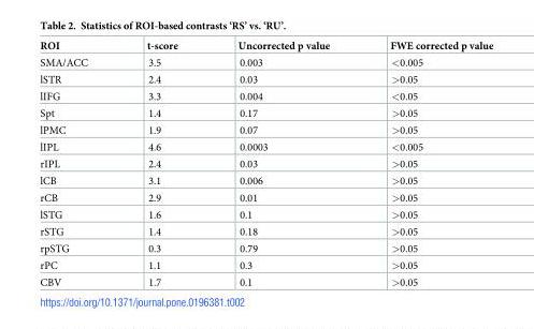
<table><thead><tr><td>ROI</td><td>t-score</td><td>Uncorrected p value</td><td>FWE corrected p value</td></tr></thead><tbody><tr><td>SMA/ACC</td><td>3.5</td><td>0.003</td><td>&lt;0.005</td></tr><tr><td>lSTR</td><td>2.4</td><td>0.03</td><td>&gt;0.05</td></tr><tr><td>lIFG</td><td>3.3</td><td>0.004</td><td>&lt;0.05</td></tr><tr><td>Spt</td><td>1.4</td><td>0.17</td><td>&gt;0.05</td></tr><tr><td>lPMC</td><td>1.9</td><td>0.07</td><td>&gt;0.05</td></tr><tr><td>lIPL</td><td>4.6</td><td>0.0003</td><td>&lt;0.005</td></tr><tr><td>rIPL</td><td>2.4</td><td>0.03</td><td>&gt;0.05</td></tr><tr><td>lCB</td><td>3.1</td><td>0.006</td><td>&gt;0.05</td></tr><tr><td>rCB</td><td>2.9</td><td>0.01</td><td>&gt;0.05</td></tr><tr><td>lSTG</td><td>1.6</td><td>0.1</td><td>&gt;0.05</td></tr><tr><td>rSTG</td><td>1.4</td><td>0.18</td><td>&gt;0.05</td></tr><tr><td>rpSTG</td><td>0.3</td><td>0.79</td><td>&gt;0.05</td></tr><tr><td>rPC</td><td>1.1</td><td>0.3</td><td>&gt;0.05</td></tr><tr><td>CBV</td><td>1.7</td><td>0.1</td><td>&gt;0.05</td></tr></tbody></table>